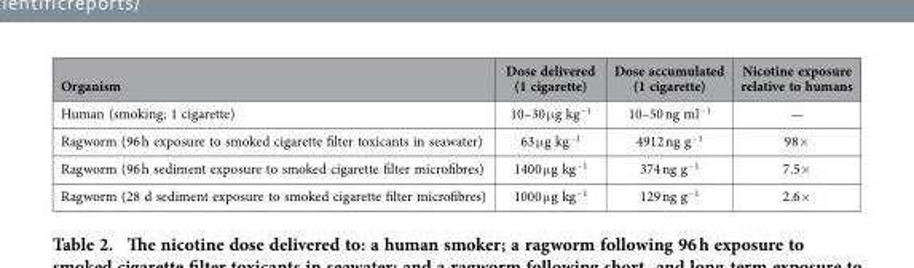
<table><thead><tr><td>Organism</td><td>Dose delivered (1 cigarette)</td><td>Dose accumulated (1 cigarette)</td><td>Nicotine exposure relative to humans</td></tr></thead><tbody><tr><td>Human (smoking; 1 cigarette)</td><td>10–30 μ g kg<sup>−1</sup></td><td>10–50 ng ml<sup>−1</sup></td><td>—</td></tr><tr><td>Ragworm (96 h exposure to smoked cigarette filter toxicants in seawater)</td><td>63 μ g kg<sup>−1</sup></td><td>4912 ng g<sup>−1</sup></td><td>98×</td></tr><tr><td>Ragworm (96 h sediment exposure to smoked cigarette filter microfibres)</td><td>1400 μ g kg<sup>−1</sup></td><td>374 ng g<sup>−1</sup></td><td>7.5×</td></tr><tr><td>Ragworm (28 d sediment exposure to smoked cigarette filter microfibres)</td><td>1000 μ g kg<sup>−1</sup></td><td>129 ng g<sup>−1</sup></td><td>2.6×</td></tr></tbody></table>